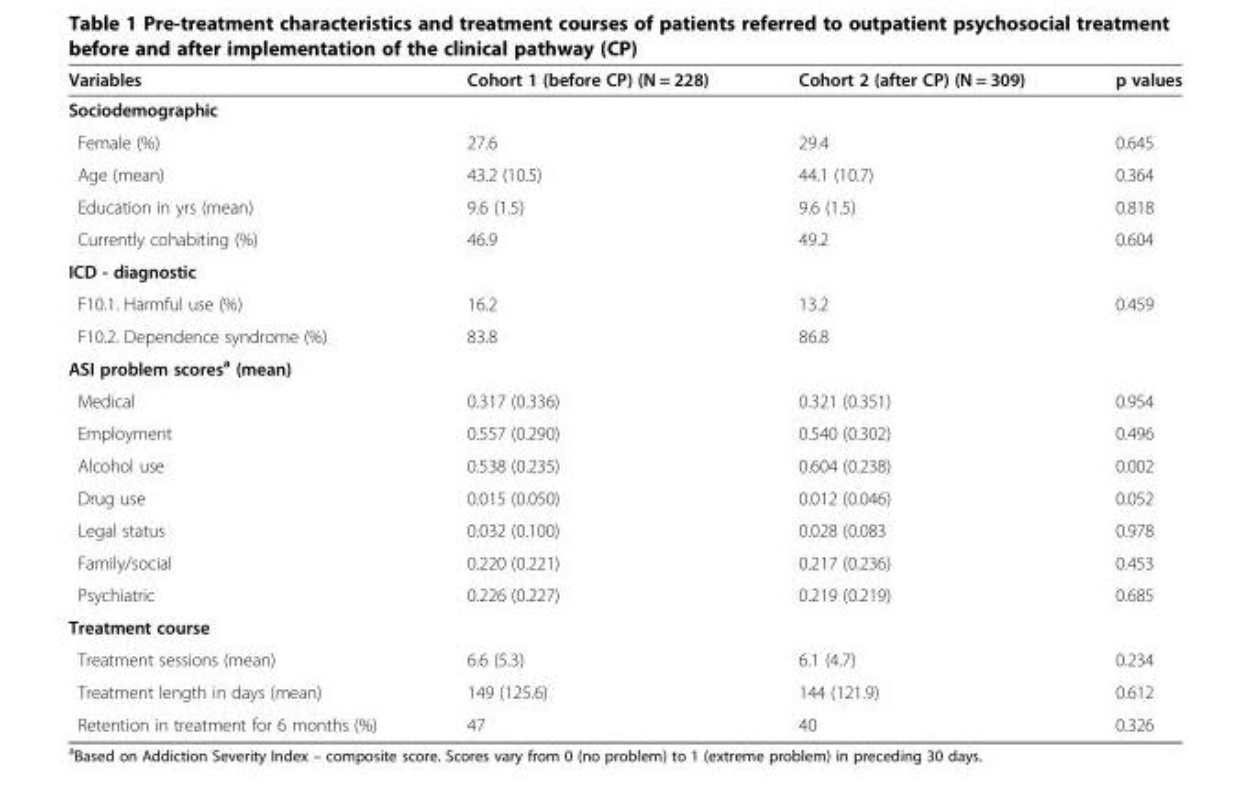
<table><thead><tr><td>Variables</td><td>Cohort 1 (before CP) (N = 228)</td><td>Cohort 2 (after CP) (N = 309)</td><td>p values</td></tr></thead><tbody><tr><td colspan="4">Sociodemographic</td></tr><tr><td>Female (%)</td><td>27.6</td><td>29.4</td><td>0.645</td></tr><tr><td>Age (mean)</td><td>43.2 (10.5)</td><td>44.1 (10.7)</td><td>0.364</td></tr><tr><td>Education in yrs (mean)</td><td>9.6 (1.5)</td><td>9.6 (1.5)</td><td>0.818</td></tr><tr><td>Currently cohabiting (%)</td><td>46.9</td><td>49.2</td><td>0.604</td></tr><tr><td colspan="4">ICD - diagnostic</td></tr><tr><td>F10.1. Harmful use (%)</td><td>16.2</td><td>13.2</td><td>0.459</td></tr><tr><td>F10.2. Dependence syndrome (%)</td><td>83.8</td><td>86.8</td><td></td></tr><tr><td colspan="4">ASI problem scores<sup>a</sup> (mean)</td></tr><tr><td>Medical</td><td>0.317 (0.336)</td><td>0.321 (0.351)</td><td>0.954</td></tr><tr><td>Employment</td><td>0.557 (0.290)</td><td>0.540 (0.302)</td><td>0.496</td></tr><tr><td>Alcohol use</td><td>0.538 (0.235)</td><td>0.604 (0.238)</td><td>0.002</td></tr><tr><td>Drug use</td><td>0.015 (0.050)</td><td>0.012 (0.046)</td><td>0.052</td></tr><tr><td>Legal status</td><td>0.032 (0.100)</td><td>0.028 (0.083</td><td>0.978</td></tr><tr><td>Family/social</td><td>0.220 (0.221)</td><td>0.217 (0.236)</td><td>0.453</td></tr><tr><td>Psychiatric</td><td>0.226 (0.227)</td><td>0.219 (0.219)</td><td>0.685</td></tr><tr><td colspan="4">Treatment course</td></tr><tr><td>Treatment sessions (mean)</td><td>6.6 (5.3)</td><td>6.1 (4.7)</td><td>0.234</td></tr><tr><td>Treatment length in days (mean)</td><td>149 (125.6)</td><td>144 (121.9)</td><td>0.612</td></tr><tr><td>Retention in treatment for 6 months (%)</td><td>47</td><td>40</td><td>0.326</td></tr></tbody></table>